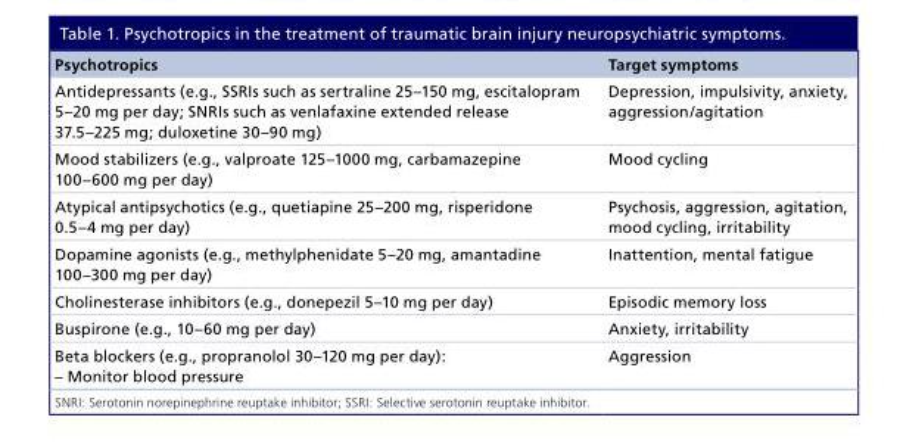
<table><thead><tr><td>Psychotropics</td><td>Target symptoms</td></tr></thead><tbody><tr><td>Antidepressants (e.g., SSRIs such as sertraline 25–150 mg, escitalopram 5–20 mg per day; SNRIs such as venlafaxine extended release 37.5–225 mg; duloxetine 30–90 mg)</td><td>Depression, impulsivity, anxiety, aggression/agitation</td></tr><tr><td>Mood stabilizers (e.g., valproate 125–1000 mg, carbamazepine 100–600 mg per day)</td><td>Mood cycling</td></tr><tr><td>Atypical antipsychotics (e.g., quetiapine 25–200 mg, risperidone 0.5–4 mg per day)</td><td>Psychosis, aggression, agitation, mood cycling, irritability</td></tr><tr><td>Dopamine agonists (e.g., methylphenidate 5–20 mg, amantadine 100–300 mg per day)</td><td>Inattention, mental fatigue</td></tr><tr><td>Cholinesterase inhibitors (e.g., donepezil 5–10 mg per day)</td><td>Episodic memory loss</td></tr><tr><td>Buspirone (e.g., 10–60 mg per day)</td><td>Anxiety, irritability</td></tr><tr><td>Beta blockers (e.g., propranolol 30–120 mg per day): – Monitor blood pressure</td><td>Aggression</td></tr></tbody></table>